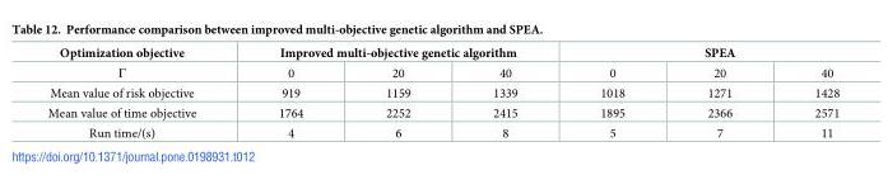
<table><thead><tr><td rowspan="2">Optimization objective Γ</td><td colspan="3">Improved multi-objective genetic algorithm</td><td colspan="3">SPEA</td></tr><tr><td>0</td><td>20</td><td>40</td><td>0</td><td>20</td><td>40</td></tr></thead><tbody><tr><td>Mean value of risk objective</td><td>919</td><td>1159</td><td>1339</td><td>1018</td><td>1271</td><td>1428</td></tr><tr><td>Mean value of time objective</td><td>1764</td><td>2252</td><td>2415</td><td>1895</td><td>2366</td><td>2571</td></tr><tr><td>Run time/(s)</td><td>4</td><td>6</td><td>8</td><td>5</td><td>7</td><td>11</td></tr></tbody></table>